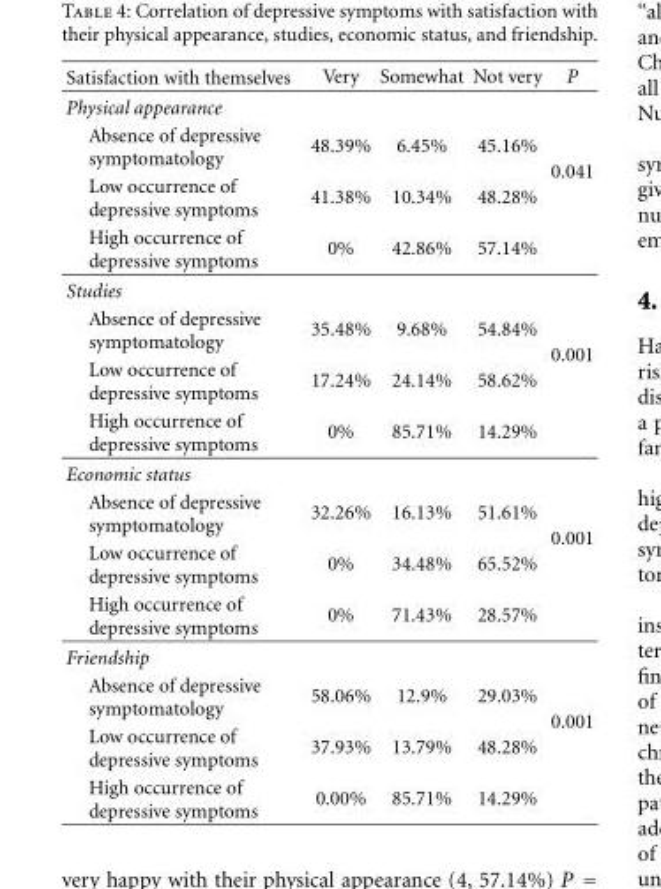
<table><thead><tr><td>Satisfaction with themselves</td><td>Very</td><td>Somewhat</td><td>Not very</td><td>P</td></tr></thead><tbody><tr><td colspan="5">Physical appearance</td></tr><tr><td>Absence of depressive symptomatology</td><td>48.39%</td><td>6.45%</td><td>45.16%</td><td rowspan="3">0.041</td></tr><tr><td>Low occurrence of depressive symptoms</td><td>41.38%</td><td>10.34%</td><td>48.28%</td></tr><tr><td>High occurrence of depressive symptoms</td><td>0%</td><td>42.86%</td><td>57.14%</td></tr><tr><td colspan="5">Studies</td></tr><tr><td>Absence of depressive symptomatology</td><td>35.48%</td><td>9.68%</td><td>54.84%</td><td rowspan="3">0.001</td></tr><tr><td>Low occurrence of depressive symptoms</td><td>17.24%</td><td>24.14%</td><td>58.62%</td></tr><tr><td>High occurrence of depressive symptoms</td><td>0%</td><td>85.71%</td><td>14.29%</td></tr><tr><td colspan="5">Economic status</td></tr><tr><td>Absence of depressive symptomatology</td><td>32.26%</td><td>16.13%</td><td>51.61%</td><td rowspan="3">0.001</td></tr><tr><td>Low occurrence of depressive symptoms</td><td>0%</td><td>34.48%</td><td>65.52%</td></tr><tr><td>High occurrence of depressive symptoms</td><td>0%</td><td>71.43%</td><td>28.57%</td></tr><tr><td colspan="5">Friendship</td></tr><tr><td>Absence of depressive symptomatology</td><td>58.06%</td><td>12.9%</td><td>29.03%</td><td rowspan="3">0.001</td></tr><tr><td>Low occurrence of depressive symptoms</td><td>37.93%</td><td>13.79%</td><td>48.28%</td></tr><tr><td>High occurrence of depressive symptoms</td><td>0.00%</td><td>85.71%</td><td>14.29%</td></tr></tbody></table>